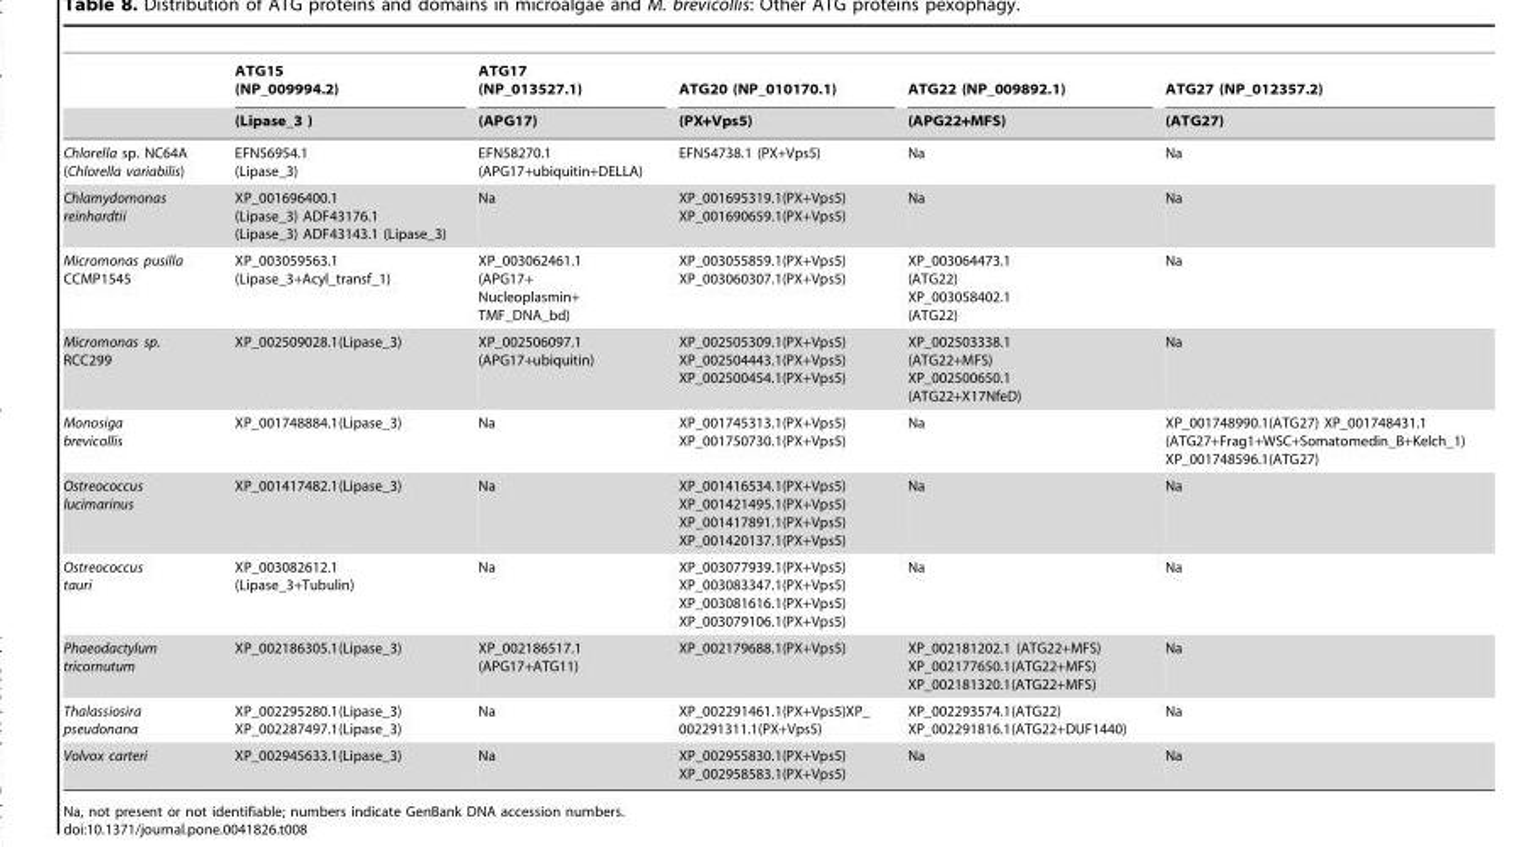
<table><thead><tr><td rowspan="2"></td><td rowspan="2">ATG15 (NP_009994.2) (Lipase_3 )</td><td rowspan="2">ATG17 (NP_013527.1) (APG17)</td><td rowspan="2">ATG20 (NP_010170.1) (PX+Vps5)</td><td rowspan="2">ATG22 (NP_009892.1) (APG22+MFS)</td><td rowspan="2">ATG27 (NP_012357.2) (ATG27)</td></tr><tr></tr></thead><tbody><tr><td>Chlorella sp. NC64A (Chlorella variabilis)</td><td>EFN56954.1 (Lipase_3)</td><td>EFN58270.1 (APG17+ubiquitin+DELLA)</td><td>EFN54738.1 (PX+Vps5)</td><td>Na</td><td>Na</td></tr><tr><td>Chlamydomonas reinhardtii</td><td>XP_001696400.1 (Lipase_3) ADF43176.1 (Lipase_3) ADF43143.1 (Lipase_3)</td><td>Na</td><td>XP_001695319.1(PX+Vps5) XP_001690659.1(PX+Vps5)</td><td>Na</td><td>Na</td></tr><tr><td>Micromonas pusilla CCMP1545</td><td>XP_003059563.1 (Lipase_3+Acyl_transf_1)</td><td>XP_003062461.1 (APG17+ Nucleoplasmin+ TMF_DNA_bd)</td><td>XP_003055859.1(PX+Vps5) XP_003060307.1(PX+Vps5)</td><td>XP_003064473.1 (ATG22) XP_003058402.1 (ATG22)</td><td>Na</td></tr><tr><td>Micromonas sp. RCC299</td><td>XP_002509028.1(Lipase_3)</td><td>XP_002506097.1 (APG17+ubiquitin)</td><td>XP_002505309.1(PX+Vps5) XP_002504443.1(PX+Vps5) XP_002500454.1(PX+Vps5)</td><td>XP_002503338.1 (ATG22+MFS) XP_002500650.1 (ATG22+X17NfeD)</td><td>Na</td></tr><tr><td>Monosiga brevicollis</td><td>XP_001748884.1(Lipase_3)</td><td>Na</td><td>XP_001745313.1(PX+Vps5) XP_001750730.1(PX+Vps5)</td><td>Na</td><td>XP_001748990.1(ATG27) XP_001748431.1 (ATG27+Frag1+WSC+Somatomedin_B+Kelch_1) XP_001748596.1(ATG27)</td></tr><tr><td>Ostreococcus lucimarinus</td><td>XP_001417482.1(Lipase_3)</td><td>Na</td><td>XP_001416534.1(PX+Vps5) XP_001421495.1(PX+Vps5) XP_001417891.1(PX+Vps5) XP_001420137.1(PX+Vps5)</td><td>Na</td><td>Na</td></tr><tr><td>Ostreococcus tauri</td><td>XP_003082612.1 (Lipase_3+Tubulin)</td><td>Na</td><td>XP_003077939.1(PX+Vps5) XP_003083347.1(PX+Vps5) XP_003081616.1(PX+Vps5) XP_003079106.1(PX+Vps5)</td><td>Na</td><td>Na</td></tr><tr><td>Phaeodactylum tricornutum</td><td>XP_002186305.1(Lipase_3)</td><td>XP_002186517.1 (APG17+ATG11)</td><td>XP_002179688.1(PX+Vps5)</td><td>XP_002181202.1 (ATG22+MFS) XP_002177650.1(ATG22+MFS) XP_002181320.1(ATG22+MFS)</td><td>Na</td></tr><tr><td>Thalassiosira pseudonana</td><td>XP_002295280.1(Lipase_3) XP_002287497.1(Lipase_3)</td><td>Na</td><td>XP_002291461.1(PX+Vps5)XP_ 002291311.1(PX+Vps5)</td><td>XP_002293574.1(ATG22) XP_002291816.1(ATG22+DUF1440)</td><td>Na</td></tr><tr><td>Volvox carteri</td><td>XP_002945633.1(Lipase_3)</td><td>Na</td><td>XP_002955830.1(PX+Vps5) XP_002958583.1(PX+Vps5)</td><td>Na</td><td>Na</td></tr></tbody></table>